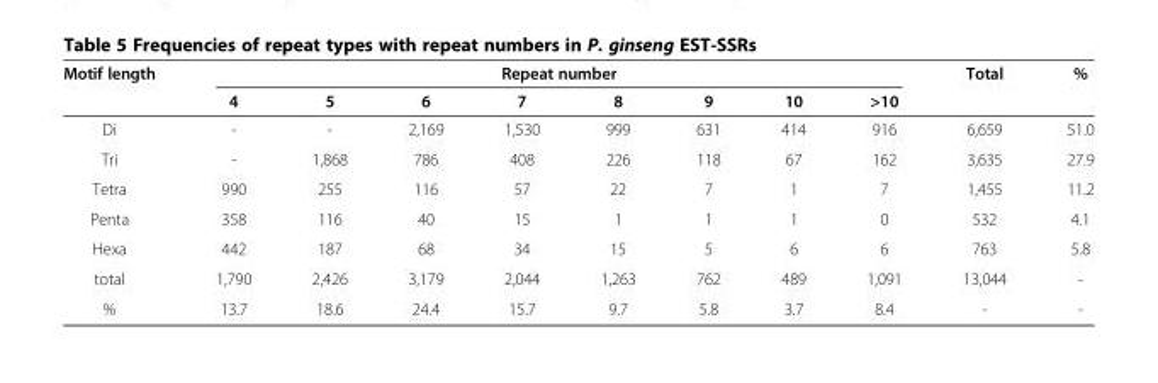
<table><thead><tr><td rowspan="2">Motif length</td><td colspan="8">Repeat number</td><td rowspan="2">Total</td><td rowspan="2">%</td></tr><tr><td>4</td><td>5</td><td>6</td><td>7</td><td>8</td><td>9</td><td>10</td><td>&gt;10</td></tr></thead><tbody><tr><td>Di</td><td>-</td><td>-</td><td>2,169</td><td>1,530</td><td>999</td><td>631</td><td>414</td><td>916</td><td>6,659</td><td>51.0</td></tr><tr><td>Tri</td><td>-</td><td>1,868</td><td>786</td><td>408</td><td>226</td><td>118</td><td>67</td><td>162</td><td>3,635</td><td>27.9</td></tr><tr><td>Tetra</td><td>990</td><td>255</td><td>116</td><td>57</td><td>22</td><td>7</td><td>1</td><td>7</td><td>1,455</td><td>11.2</td></tr><tr><td>Penta</td><td>358</td><td>116</td><td>40</td><td>15</td><td>1</td><td>1</td><td>1</td><td>0</td><td>532</td><td>4.1</td></tr><tr><td>Hexa</td><td>442</td><td>187</td><td>68</td><td>34</td><td>15</td><td>5</td><td>6</td><td>6</td><td>763</td><td>5.8</td></tr><tr><td>total</td><td>1,790</td><td>2,426</td><td>3,179</td><td>2,044</td><td>1,263</td><td>762</td><td>489</td><td>1,091</td><td>13,044</td><td>-</td></tr><tr><td>%</td><td>13.7</td><td>18.6</td><td>24.4</td><td>15.7</td><td>9.7</td><td>5.8</td><td>3.7</td><td>8.4</td><td>-</td><td>-</td></tr></tbody></table>